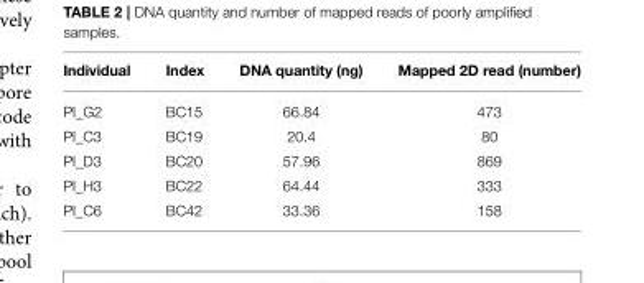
<table><thead><tr><td>Individual</td><td>Index</td><td>DNA quantity (ng)</td><td>Mapped 2D read (number)</td></tr></thead><tbody><tr><td>PI_G2</td><td>BC15</td><td>66.84</td><td>473</td></tr><tr><td>PI_C3</td><td>BC19</td><td>20.4</td><td>80</td></tr><tr><td>PI_D3</td><td>BC20</td><td>57.96</td><td>869</td></tr><tr><td>PI_H3</td><td>BC22</td><td>64.44</td><td>333</td></tr><tr><td>PI_C6</td><td>BC42</td><td>33.36</td><td>158</td></tr></tbody></table>